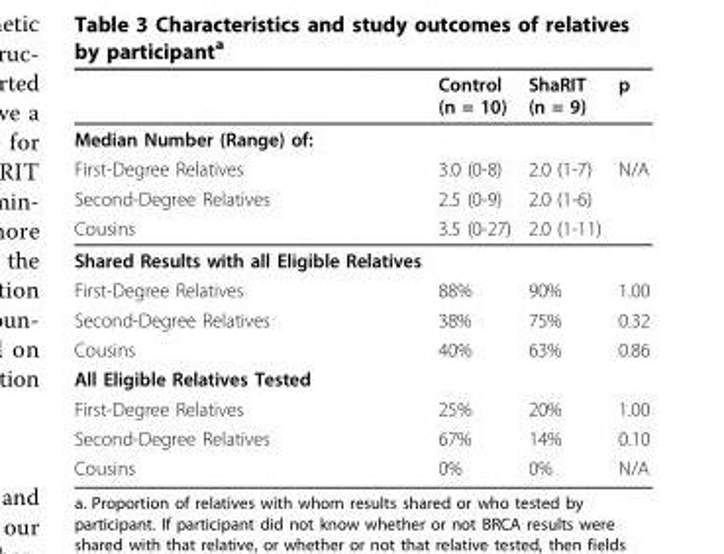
<table><thead><tr><td></td><td>Control (n = 10)</td><td>ShaRIT (n = 9)</td><td>p</td></tr></thead><tbody><tr><td colspan="4">Median Number (Range) of:</td></tr><tr><td>First-Degree Relatives</td><td>3.0 (0-8)</td><td>2.0 (1-7)</td><td>N/A</td></tr><tr><td>Second-Degree Relatives</td><td>2.5 (0-9)</td><td>2.0 (1-6)</td><td></td></tr><tr><td>Cousins</td><td>3.5 (0-27)</td><td>2.0 (1-11)</td><td></td></tr><tr><td colspan="4">Shared Results with all Eligible Relatives</td></tr><tr><td>First-Degree Relatives</td><td>88%</td><td>90%</td><td>1.00</td></tr><tr><td>Second-Degree Relatives</td><td>38%</td><td>75%</td><td>0.32</td></tr><tr><td>Cousins</td><td>40%</td><td>63%</td><td>0.86</td></tr><tr><td colspan="4">All Eligible Relatives Tested</td></tr><tr><td>First-Degree Relatives</td><td>25%</td><td>20%</td><td>1.00</td></tr><tr><td>Second-Degree Relatives</td><td>67%</td><td>14%</td><td>0.10</td></tr><tr><td>Cousins</td><td>0%</td><td>0%</td><td>N/A</td></tr></tbody></table>